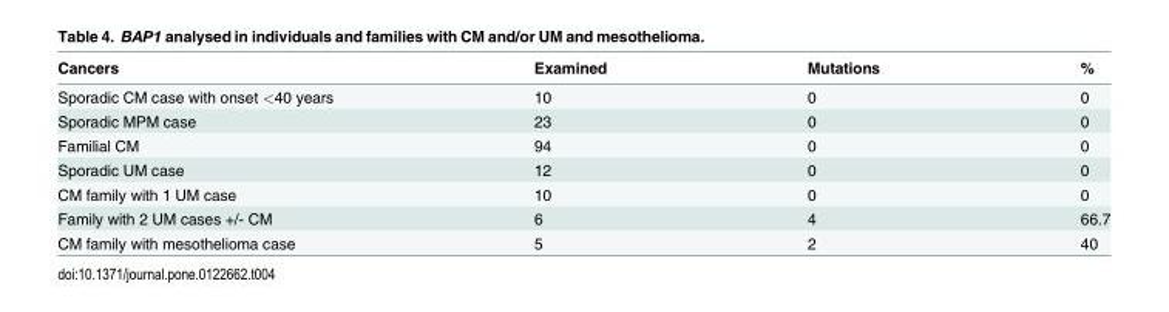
<table><thead><tr><td>Cancers</td><td>Examined</td><td>Mutations</td><td>%</td></tr></thead><tbody><tr><td>Sporadic CM case with onset &lt;40 years</td><td>10</td><td>0</td><td>0</td></tr><tr><td>Sporadic MPM case</td><td>23</td><td>0</td><td>0</td></tr><tr><td>Familial CM</td><td>94</td><td>0</td><td>0</td></tr><tr><td>Sporadic UM case</td><td>12</td><td>0</td><td>0</td></tr><tr><td>CM family with 1 UM case</td><td>10</td><td>0</td><td>0</td></tr><tr><td>Family with 2 UM cases +/- CM</td><td>6</td><td>4</td><td>66.7</td></tr><tr><td>CM family with mesothelioma case</td><td>5</td><td>2</td><td>40</td></tr></tbody></table>